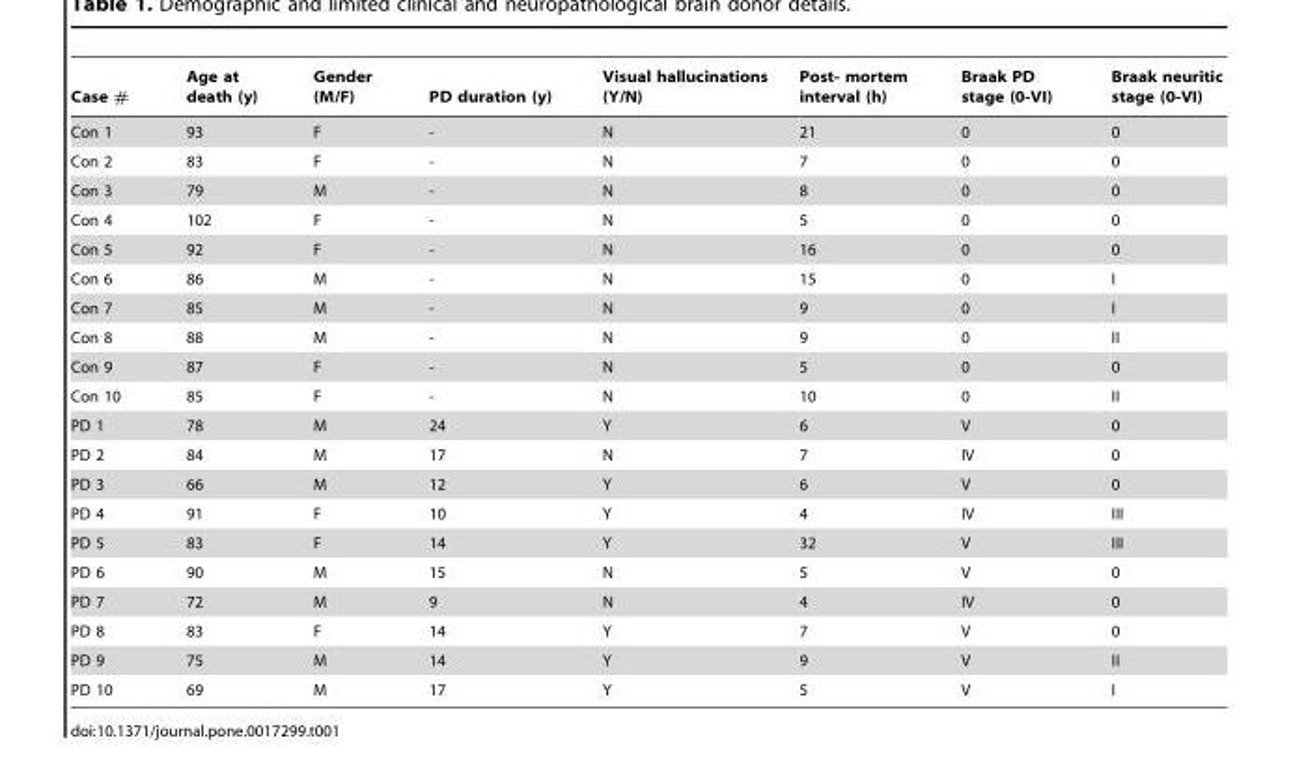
<table><thead><tr><td>Case #</td><td>Age at death (y)</td><td>Gender (M/F)</td><td>PD duration (y)</td><td>Visual hallucinations (Y/N)</td><td>Post- mortem interval (h)</td><td>Braak PD stage (0-VI)</td><td>Braak neuritic stage (0-VI)</td></tr></thead><tbody><tr><td>Con 1</td><td>93</td><td>F</td><td>-</td><td>N</td><td>21</td><td>0</td><td>0</td></tr><tr><td>Con 2</td><td>83</td><td>F</td><td>-</td><td>N</td><td>7</td><td>0</td><td>0</td></tr><tr><td>Con 3</td><td>79</td><td>M</td><td>-</td><td>N</td><td>8</td><td>0</td><td>0</td></tr><tr><td>Con 4</td><td>102</td><td>F</td><td>-</td><td>N</td><td>5</td><td>0</td><td>0</td></tr><tr><td>Con 5</td><td>92</td><td>F</td><td>-</td><td>N</td><td>16</td><td>0</td><td>0</td></tr><tr><td>Con 6</td><td>86</td><td>M</td><td>-</td><td>N</td><td>15</td><td>0</td><td>I</td></tr><tr><td>Con 7</td><td>85</td><td>M</td><td>-</td><td>N</td><td>9</td><td>0</td><td>I</td></tr><tr><td>Con 8</td><td>88</td><td>M</td><td>-</td><td>N</td><td>9</td><td>0</td><td>II</td></tr><tr><td>Con 9</td><td>87</td><td>F</td><td>-</td><td>N</td><td>5</td><td>0</td><td>0</td></tr><tr><td>Con 10</td><td>85</td><td>F</td><td>-</td><td>N</td><td>10</td><td>0</td><td>II</td></tr><tr><td>PD 1</td><td>78</td><td>M</td><td>24</td><td>Y</td><td>6</td><td>V</td><td>0</td></tr><tr><td>PD 2</td><td>84</td><td>M</td><td>17</td><td>N</td><td>7</td><td>IV</td><td>0</td></tr><tr><td>PD 3</td><td>66</td><td>M</td><td>12</td><td>Y</td><td>6</td><td>V</td><td>0</td></tr><tr><td>PD 4</td><td>91</td><td>F</td><td>10</td><td>Y</td><td>4</td><td>IV</td><td>III</td></tr><tr><td>PD 5</td><td>83</td><td>F</td><td>14</td><td>Y</td><td>32</td><td>V</td><td>III</td></tr><tr><td>PD 6</td><td>90</td><td>M</td><td>15</td><td>N</td><td>5</td><td>V</td><td>0</td></tr><tr><td>PD 7</td><td>72</td><td>M</td><td>9</td><td>N</td><td>4</td><td>IV</td><td>0</td></tr><tr><td>PD 8</td><td>83</td><td>F</td><td>14</td><td>Y</td><td>7</td><td>V</td><td>0</td></tr><tr><td>PD 9</td><td>75</td><td>M</td><td>14</td><td>Y</td><td>9</td><td>V</td><td>II</td></tr><tr><td>PD 10</td><td>69</td><td>M</td><td>17</td><td>Y</td><td>5</td><td>V</td><td>I</td></tr></tbody></table>